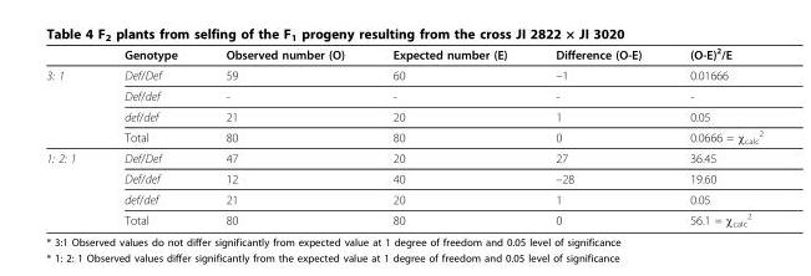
<table><thead><tr><td></td><td>Genotype</td><td>Observed number (O)</td><td>Expected number (E)</td><td>Difference (O-E)</td><td>(O-E)<sup>2</sup>/E</td></tr></thead><tbody><tr><td rowspan="4">3: 1</td><td>Def/Def</td><td>59</td><td>60</td><td>–1</td><td>0.01666</td></tr><tr><td>Def/def</td><td>-</td><td>-</td><td>-</td><td>-</td></tr><tr><td>def/def</td><td>21</td><td>20</td><td>1</td><td>0.05</td></tr><tr><td>Total</td><td>80</td><td>80</td><td>0</td><td>0.0666 = χ<sub>calc</sub> <sup>2</sup></td></tr><tr><td rowspan="4">1: 2: 1</td><td>Def/Def</td><td>47</td><td>20</td><td>27</td><td>36.45</td></tr><tr><td>Def/def</td><td>12</td><td>40</td><td>–28</td><td>19.60</td></tr><tr><td>def/def</td><td>21</td><td>20</td><td>1</td><td>0.05</td></tr><tr><td>Total</td><td>80</td><td>80</td><td>0</td><td>56.1 = χ<sub>calc</sub> <sup>2</sup></td></tr></tbody></table>